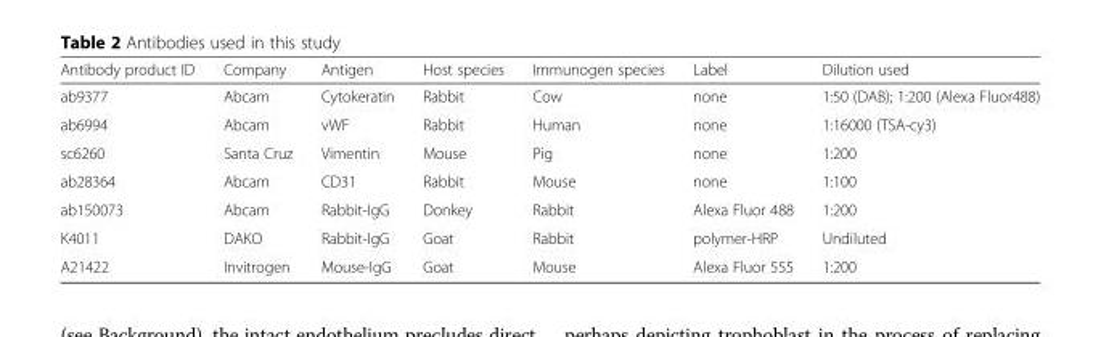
<table><thead><tr><td>Antibody product ID</td><td>Company</td><td>Antigen</td><td>Host species</td><td>Immunogen species</td><td>Label</td><td>Dilution used</td></tr></thead><tbody><tr><td>ab9377</td><td>Abcam</td><td>Cytokeratin</td><td>Rabbit</td><td>Cow</td><td>none</td><td>1:50 (DAB); 1:200 (Alexa Fluor488)</td></tr><tr><td>ab6994</td><td>Abcam</td><td>vWF</td><td>Rabbit</td><td>Human</td><td>none</td><td>1:16000 (TSA-cy3)</td></tr><tr><td>sc6260</td><td>Santa Cruz</td><td>Vimentin</td><td>Mouse</td><td>Pig</td><td>none</td><td>1:200</td></tr><tr><td>ab28364</td><td>Abcam</td><td>CD31</td><td>Rabbit</td><td>Mouse</td><td>none</td><td>1:100</td></tr><tr><td>ab150073</td><td>Abcam</td><td>Rabbit-IgG</td><td>Donkey</td><td>Rabbit</td><td>Alexa Fluor 488</td><td>1:200</td></tr><tr><td>K4011</td><td>DAKO</td><td>Rabbit-IgG</td><td>Goat</td><td>Rabbit</td><td>polymer-HRP</td><td>Undiluted</td></tr><tr><td>A21422</td><td>Invitrogen</td><td>Mouse-IgG</td><td>Goat</td><td>Mouse</td><td>Alexa Fluor 555</td><td>1:200</td></tr></tbody></table>